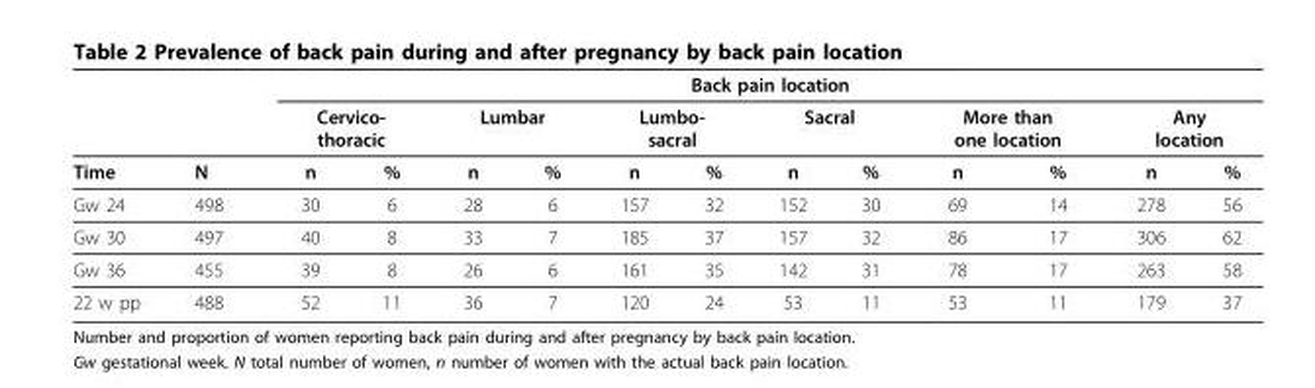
<table><thead><tr><td rowspan="3">Time</td><td rowspan="3">N</td><td colspan="12">Back pain location</td></tr><tr><td colspan="2">Cervico- thoracic</td><td colspan="2">Lumbar</td><td colspan="2">Lumbo- sacral</td><td colspan="2">Sacral</td><td colspan="2">More than one location</td><td colspan="2">Any location</td></tr><tr><td>n</td><td>%</td><td>n</td><td>%</td><td>n</td><td>%</td><td>n</td><td>%</td><td>n</td><td>%</td><td>n</td><td>%</td></tr></thead><tbody><tr><td>Gw 24</td><td>498</td><td>30</td><td>6</td><td>28</td><td>6</td><td>157</td><td>32</td><td>152</td><td>30</td><td>69</td><td>14</td><td>278</td><td>56</td></tr><tr><td>Gw 30</td><td>497</td><td>40</td><td>8</td><td>33</td><td>7</td><td>185</td><td>37</td><td>157</td><td>32</td><td>86</td><td>17</td><td>306</td><td>62</td></tr><tr><td>Gw 36</td><td>455</td><td>39</td><td>8</td><td>26</td><td>6</td><td>161</td><td>35</td><td>142</td><td>31</td><td>78</td><td>17</td><td>263</td><td>58</td></tr><tr><td>22 w pp</td><td>488</td><td>52</td><td>11</td><td>36</td><td>7</td><td>120</td><td>24</td><td>53</td><td>11</td><td>53</td><td>11</td><td>179</td><td>37</td></tr></tbody></table>